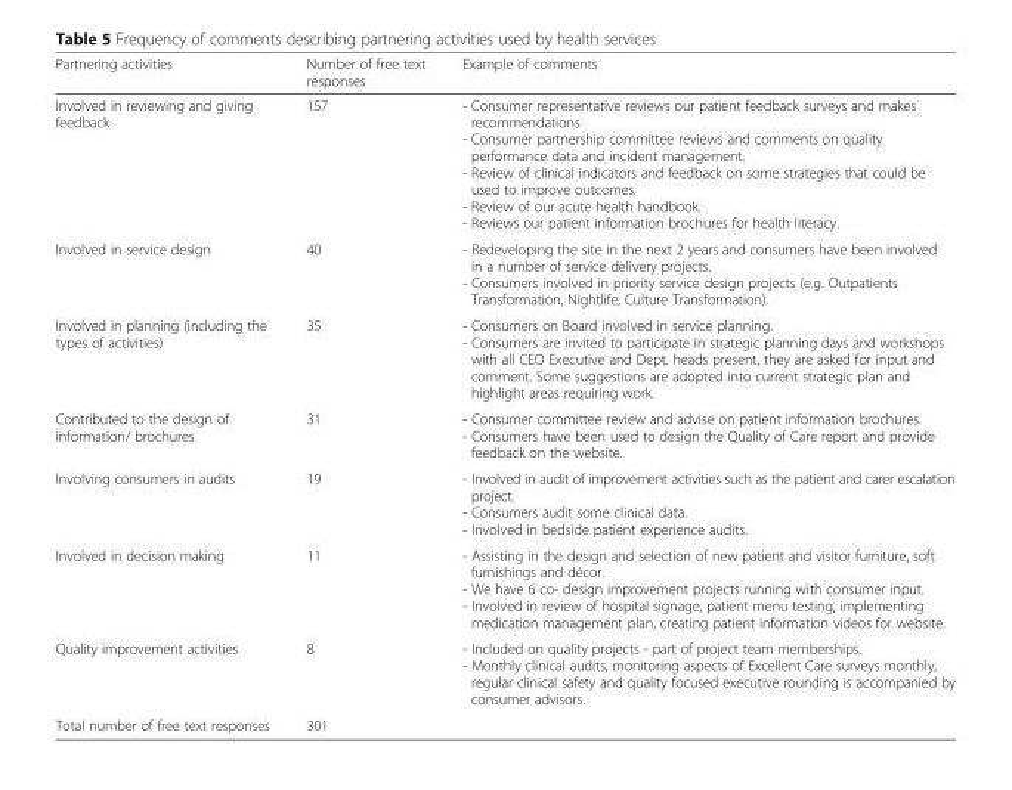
<table><thead><tr><td>Partnering activities</td><td>Number of free text responses</td><td>Example of comments</td></tr></thead><tbody><tr><td>Involved in reviewing and giving feedback</td><td>157</td><td>- Consumer representative reviews our patient feedback surveys and makes recommendations - Consumer partnership committee reviews and comments on quality performance data and incident management. - Review of clinical indicators and feedback on some strategies that could be used to improve outcomes. - Review of our acute health handbook. - Reviews our patient information brochures for health literacy.</td></tr><tr><td>Involved in service design</td><td>40</td><td>- Redeveloping the site in the next 2 years and consumers have been involved in a number of service delivery projects. - Consumers involved in priority service design projects (e.g. Outpatients Transformation, Nightlife, Culture Transformation).</td></tr><tr><td>Involved in planning (including the types of activities)</td><td>35</td><td>- Consumers on Board involved in service planning. - Consumers are invited to participate in strategic planning days and workshops with all CEO Executive and Dept. heads present, they are asked for input and comment. Some suggestions are adopted into current strategic plan and highlight areas requiring work.</td></tr><tr><td>Contributed to the design of information/ brochures</td><td>31</td><td>- Consumer committee review and advise on patient information brochures. - Consumers have been used to design the Quality of Care report and provide feedback on the website.</td></tr><tr><td>Involving consumers in audits</td><td>19</td><td>- Involved in audit of improvement activities such as the patient and carer escalation project. - Consumers audit some clinical data. - Involved in bedside patient experience audits.</td></tr><tr><td>Involved in decision making</td><td>11</td><td>- Assisting in the design and selection of new patient and visitor furniture, soft furnishings and décor. - We have 6 co- design improvement projects running with consumer input. - Involved in review of hospital signage, patient menu testing, implementing medication management plan, creating patient information videos for website.</td></tr><tr><td>Quality improvement activities</td><td>8</td><td>- Included on quality projects - part of project team memberships. - Monthly clinical audits, monitoring aspects of Excellent Care surveys monthly, regular clinical safety and quality focused executive rounding is accompanied by consumer advisors.</td></tr><tr><td>Total number of free text responses</td><td>301</td><td></td></tr></tbody></table>